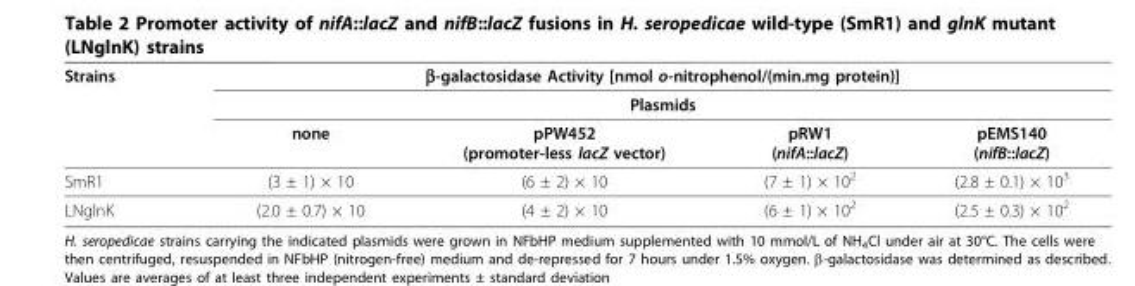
<table><thead><tr><td rowspan="3">Strains</td><td rowspan="2" colspan="4">β-galactosidase Activity [nmol o-nitrophenol/(min.mg protein)] Plasmids</td></tr><tr></tr><tr><td>none</td><td>pPW452 (promoter-less lacZ vector)</td><td>pRW1 (nifA::lacZ)</td><td>pEMS140 (nifB::lacZ)</td></tr></thead><tbody><tr><td>SmR1</td><td>(3 ± 1) × 10</td><td>(6 ± 2) × 10</td><td>(7 ± 1) × 10<sup>2</sup></td><td>(2.8 ± 0.1) × 10<sup>3</sup></td></tr><tr><td>LNglnK</td><td>(2.0 ± 0.7) × 10</td><td>(4 ± 2) × 10</td><td>(6 ± 1) × 10<sup>2</sup></td><td>(2.5 ± 0.3) × 10<sup>2</sup></td></tr></tbody></table>